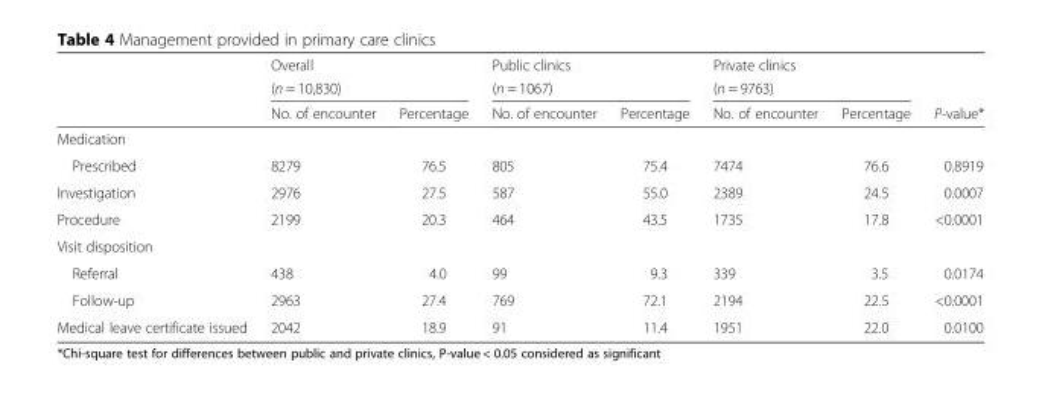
<table><thead><tr><td rowspan="3"></td><td rowspan="2" colspan="2">Overall (n = 10,830)</td><td rowspan="2" colspan="2">Public clinics (n = 1067)</td><td rowspan="2" colspan="2">Private clinics (n = 9763)</td><td rowspan="3">P-value*</td></tr><tr></tr><tr><td>No. of encounter</td><td>Percentage</td><td>No. of encounter</td><td>Percentage</td><td>No. of encounter</td><td>Percentage</td></tr></thead><tbody><tr><td colspan="8">Medication</td></tr><tr><td>Prescribed</td><td>8279</td><td>76.5</td><td>805</td><td>75.4</td><td>7474</td><td>76.6</td><td>0.8919</td></tr><tr><td>Investigation</td><td>2976</td><td>27.5</td><td>587</td><td>55.0</td><td>2389</td><td>24.5</td><td>0.0007</td></tr><tr><td>Procedure</td><td>2199</td><td>20.3</td><td>464</td><td>43.5</td><td>1735</td><td>17.8</td><td>&lt;0.0001</td></tr><tr><td colspan="8">Visit disposition</td></tr><tr><td>Referral</td><td>438</td><td>4.0</td><td>99</td><td>9.3</td><td>339</td><td>3.5</td><td>0.0174</td></tr><tr><td>Follow-up</td><td>2963</td><td>27.4</td><td>769</td><td>72.1</td><td>2194</td><td>22.5</td><td>&lt;0.0001</td></tr><tr><td>Medical leave certificate issued</td><td>2042</td><td>18.9</td><td>91</td><td>11.4</td><td>1951</td><td>22.0</td><td>0.0100</td></tr></tbody></table>